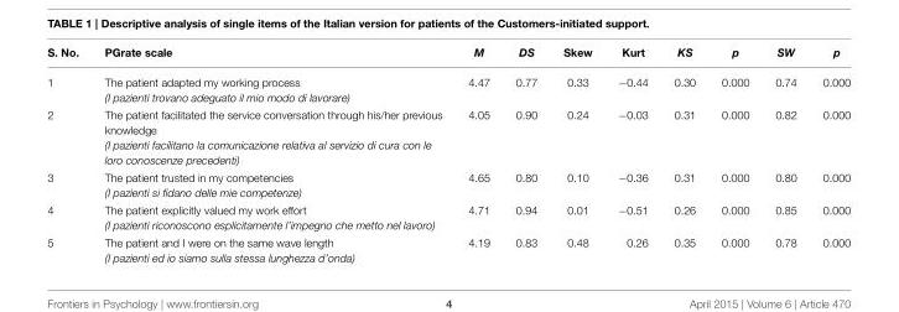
<table><thead><tr><td>S. No.</td><td>PGrate scale</td><td>M</td><td>DS</td><td>Skew</td><td>Kurt</td><td>KS</td><td>p</td><td>SW</td><td>p</td></tr></thead><tbody><tr><td>1</td><td>The patient adapted my working process (I pazienti trovano adeguato il mio modo di lavorare)</td><td>4.47</td><td>0.77</td><td>0.33</td><td>−0.44</td><td>0.30</td><td>0.000</td><td>0.74</td><td>0.000</td></tr><tr><td>2</td><td>The patient facilitated the service conversation through his/her previous knowledge (I pazienti facilitano la comunicazione relativa al servizio di cura con le loro conoscenze precedenti)</td><td>4.05</td><td>0.90</td><td>0.24</td><td>−0.03</td><td>0.31</td><td>0.000</td><td>0.82</td><td>0.000</td></tr><tr><td>3</td><td>The patient trusted in my competencies (I pazienti si fidano delle mie competenze)</td><td>4.65</td><td>0.80</td><td>0.10</td><td>−0.36</td><td>0.31</td><td>0.000</td><td>0.80</td><td>0.000</td></tr><tr><td>4</td><td>The patient explicitly valued my work effort (I pazienti riconoscono esplicitamente l’impegno che metto nel lavoro)</td><td>4.71</td><td>0.94</td><td>0.01</td><td>−0.51</td><td>0.26</td><td>0.000</td><td>0.85</td><td>0.000</td></tr><tr><td>5</td><td>The patient and I were on the same wave length (I pazienti ed io siamo sulla stessa lunghezza d’onda)</td><td>4.19</td><td>0.83</td><td>0.48</td><td>0.26</td><td>0.35</td><td>0.000</td><td>0.78</td><td>0.000</td></tr></tbody></table>